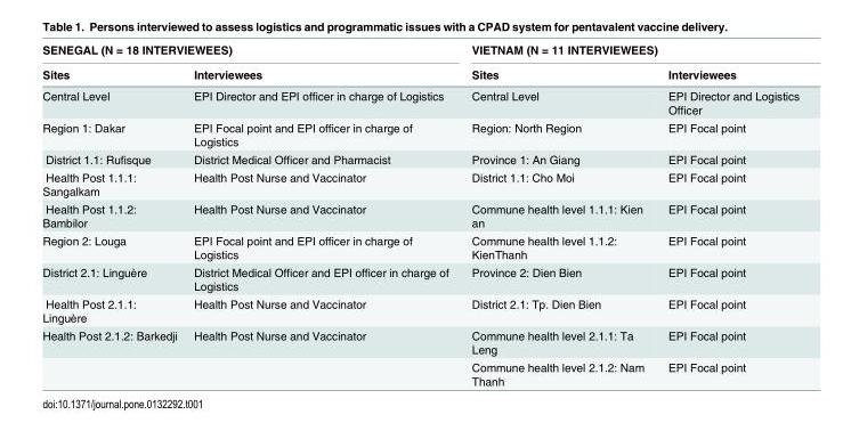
<table><thead><tr><td colspan="2">SENEGAL (N = 18 INTERVIEWEES)</td><td colspan="2">VIETNAM (N = 11 INTERVIEWEES)</td></tr><tr><td>Sites</td><td>Interviewees</td><td>Sites</td><td>Interviewees</td></tr></thead><tbody><tr><td>Central Level</td><td>EPI Director and EPI officer in charge of Logistics</td><td>Central Level</td><td>EPI Director and Logistics Officer</td></tr><tr><td>Region 1: Dakar</td><td>EPI Focal point and EPI officer in charge of Logistics</td><td>Region: North Region</td><td>EPI Focal point</td></tr><tr><td>District 1.1: Rufisque</td><td>District Medical Officer and Pharmacist</td><td>Province 1: An Giang</td><td>EPI Focal point</td></tr><tr><td>Health Post 1.1.1: Sangalkam</td><td>Health Post Nurse and Vaccinator</td><td>District 1.1: Cho Moi</td><td>EPI Focal point</td></tr><tr><td>Health Post 1.1.2: Bambilor</td><td>Health Post Nurse and Vaccinator</td><td>Commune health level 1.1.1: Kien an</td><td>EPI Focal point</td></tr><tr><td>Region 2: Louga</td><td>EPI Focal point and EPI officer in charge of Logistics</td><td>Commune health level 1.1.2: KienThanh</td><td>EPI Focal point</td></tr><tr><td>District 2.1: Linguère</td><td>District Medical Officer and EPI officer in charge of Logistics</td><td>Province 2: Dien Bien</td><td>EPI Focal point</td></tr><tr><td>Health Post 2.1.1: Linguère</td><td>Health Post Nurse and Vaccinator</td><td>District 2.1: Tp. Dien Bien</td><td>EPI Focal point</td></tr><tr><td rowspan="2">Health Post 2.1.2: Barkedji</td><td>Health Post Nurse and Vaccinator</td><td>Commune health level 2.1.1: Ta Leng</td><td>EPI Focal point</td></tr><tr><td></td><td>Commune health level 2.1.2: Nam Thanh</td><td>EPI Focal point</td></tr></tbody></table>